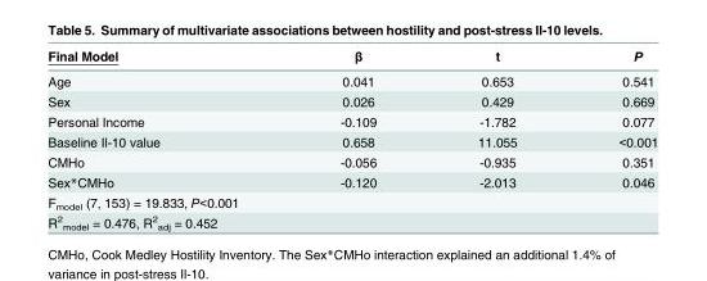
<table><thead><tr><td>Final Model</td><td>β</td><td>t</td><td>P</td></tr></thead><tbody><tr><td>Age</td><td>0.041</td><td>0.653</td><td>0.541</td></tr><tr><td>Sex</td><td>0.026</td><td>0.429</td><td>0.669</td></tr><tr><td>Personal Income</td><td>-0.109</td><td>-1.782</td><td>0.077</td></tr><tr><td>Baseline Il-10 value</td><td>0.658</td><td>11.055</td><td>&lt;0.001</td></tr><tr><td>CMHo</td><td>-0.056</td><td>-0.935</td><td>0.351</td></tr><tr><td>Sex*CMHo</td><td>-0.120</td><td>-2.013</td><td>0.046</td></tr><tr><td colspan="4">F<sub>model</sub> (7, 153) = 19.833, P&lt;0.001</td></tr><tr><td>R<sup>2</sup> <sub>model</sub> = 0.476, R<sup>2</sup> <sub>adj</sub> = 0.452</td><td></td><td></td><td></td></tr></tbody></table>